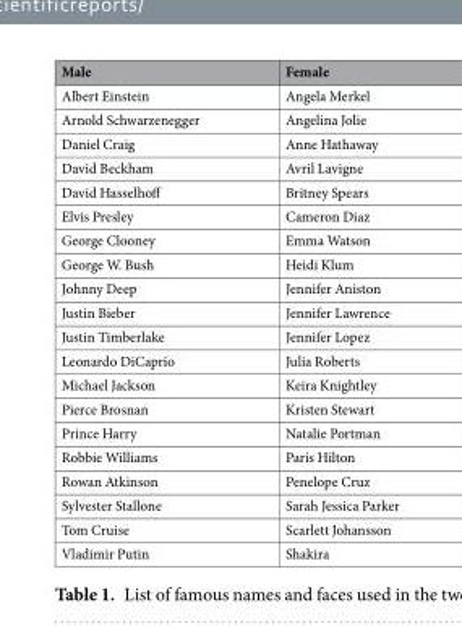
<table><thead><tr><td>Male</td><td>Female</td></tr></thead><tbody><tr><td>Albert Einstein</td><td>Angela Merkel</td></tr><tr><td>Arnold Schwarzenegger</td><td>Angelina Jolie</td></tr><tr><td>Daniel Craig</td><td>Anne Hathaway</td></tr><tr><td>David Beckham</td><td>Avril Lavigne</td></tr><tr><td>David Hasselhoff</td><td>Britney Spears</td></tr><tr><td>Elvis Presley</td><td>Cameron Diaz</td></tr><tr><td>George Clooney</td><td>Emma Watson</td></tr><tr><td>George W. Bush</td><td>Heidi Klum</td></tr><tr><td>Johnny Deep</td><td>Jennifer Aniston</td></tr><tr><td>Justin Bieber</td><td>Jennifer Lawrence</td></tr><tr><td>Justin Timberlake</td><td>Jennifer Lopez</td></tr><tr><td>Leonardo DiCaprio</td><td>Julia Roberts</td></tr><tr><td>Michael Jackson</td><td>Keira Knightley</td></tr><tr><td>Pierce Brosnan</td><td>Kristen Stewart</td></tr><tr><td>Prince Harry</td><td>Natalie Portman</td></tr><tr><td>Robbie Williams</td><td>Paris Hilton</td></tr><tr><td>Rowan Atkinson</td><td>Penelope Cruz</td></tr><tr><td>Sylvester Stallone</td><td>Sarah Jessica Parker</td></tr><tr><td>Tom Cruise</td><td>Scarlett Johansson</td></tr><tr><td>Vladimir Putin</td><td>Shakira</td></tr></tbody></table>